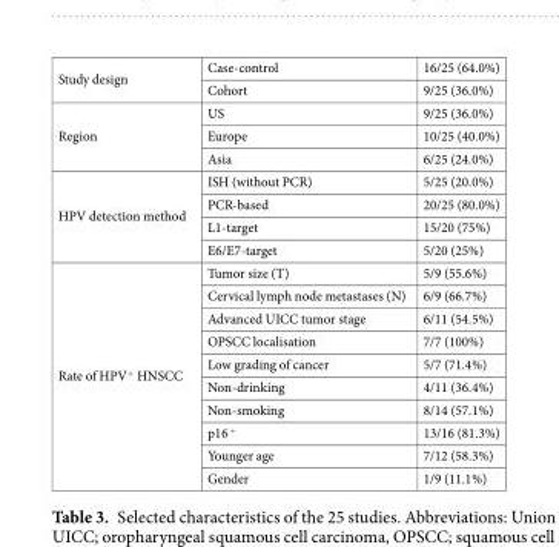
<table><tbody><tr><td rowspan="2">Study design</td><td>Case-control</td><td>16/25 (64.0%)</td></tr><tr><td>Cohort</td><td>9/25 (36.0%)</td></tr><tr><td rowspan="3">Region</td><td>US</td><td>9/25 (36.0%)</td></tr><tr><td>Europe</td><td>10/25 (40.0%)</td></tr><tr><td>Asia</td><td>6/25 (24.0%)</td></tr><tr><td rowspan="4">HPV detection method</td><td>ISH (without PCR)</td><td>5/25 (20.0%)</td></tr><tr><td>PCR-based</td><td>20/25 (80.0%)</td></tr><tr><td>L1-target</td><td>15/20 (75%)</td></tr><tr><td>E6/E7-target</td><td>5/20 (25%)</td></tr><tr><td rowspan="10">Rate of HPV<sup>+</sup> HNSCC</td><td>Tumor size (T)</td><td>5/9 (55.6%)</td></tr><tr><td>Cervical lymph node metastases (N)</td><td>6/9 (66.7%)</td></tr><tr><td>Advanced UICC tumor stage</td><td>6/11 (54.5%)</td></tr><tr><td>OPSCC localisation</td><td>7/7 (100%)</td></tr><tr><td>Low grading of cancer</td><td>5/7 (71.4%)</td></tr><tr><td>Non-drinking</td><td>4/11 (36.4%)</td></tr><tr><td>Non-smoking</td><td>8/14 (57.1%)</td></tr><tr><td>p16 <sup>+</sup></td><td>13/16 (81.3%)</td></tr><tr><td>Younger age</td><td>7/12 (58.3%)</td></tr><tr><td>Gender</td><td>1/9 (11.1%)</td></tr></tbody></table>